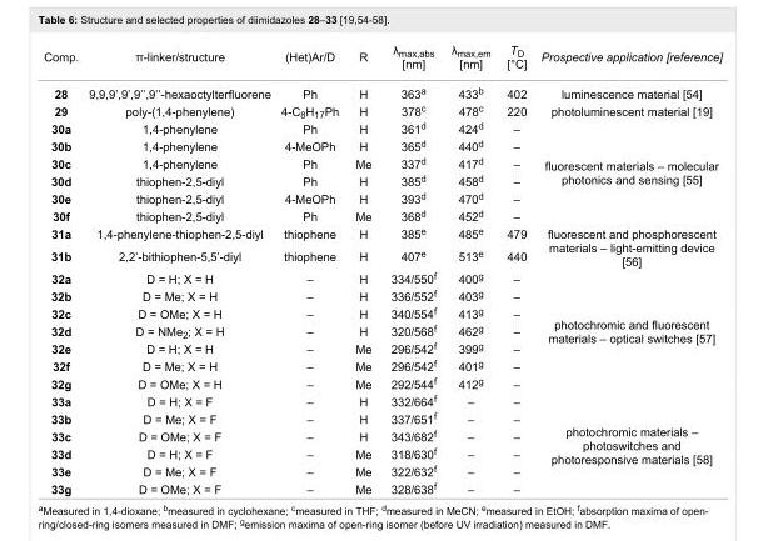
<table><tbody><tr><td>Comp.</td><td>π-linker/structure</td><td>(Het)Ar/D</td><td>R</td><td>λ<sub>max,abs</sub> [nm]</td><td>λ<sub>max,em</sub> [nm]</td><td>T<sub>D</sub> [°C]</td><td>Prospective application [reference]</td></tr><tr><td>28</td><td>9,9,9’,9’,9’’,9’’-hexaoctylterfluorene</td><td>Ph</td><td>H</td><td>363<sup>a</sup></td><td>433<sup>b</sup></td><td>402</td><td>luminescence material [54]</td></tr><tr><td>29</td><td>poly-(1,4-phenylene)</td><td>4-C<sub>8</sub>H<sub>17</sub>Ph</td><td>H</td><td>378<sup>c</sup></td><td>478<sup>c</sup></td><td>220</td><td>photoluminescent material [19]</td></tr><tr><td>30a</td><td>1,4-phenylene</td><td>Ph</td><td>H</td><td>361<sup>d</sup></td><td>424<sup>d</sup></td><td>–</td><td rowspan="6">fluorescent materials – molecular photonics and sensing [55]</td></tr><tr><td>30b</td><td>1,4-phenylene</td><td>4-MeOPh</td><td>H</td><td>365<sup>d</sup></td><td>440<sup>d</sup></td><td>–</td></tr><tr><td>30c</td><td>1,4-phenylene</td><td>Ph</td><td>Me</td><td>337<sup>d</sup></td><td>417<sup>d</sup></td><td>–</td></tr><tr><td>30d</td><td>thiophen-2,5-diyl</td><td>Ph</td><td>H</td><td>385<sup>d</sup></td><td>458<sup>d</sup></td><td>–</td></tr><tr><td>30e</td><td>thiophen-2,5-diyl</td><td>4-MeOPh</td><td>H</td><td>393<sup>d</sup></td><td>470<sup>d</sup></td><td>–</td></tr><tr><td>30f</td><td>thiophen-2,5-diyl</td><td>Ph</td><td>Me</td><td>368<sup>d</sup></td><td>452<sup>d</sup></td><td>–</td></tr><tr><td>31a</td><td>1,4-phenylene-thiophen-2,5-diyl</td><td>thiophene</td><td>H</td><td>385<sup>e</sup></td><td>485<sup>e</sup></td><td>479</td><td rowspan="2">fluorescent and phosphorescent materials – light-emitting device [56]</td></tr><tr><td>31b</td><td>2,2’-bithiophen-5,5’-diyl</td><td>thiophene</td><td>H</td><td>407<sup>e</sup></td><td>513<sup>e</sup></td><td>440</td></tr><tr><td>32a</td><td>D = H; X = H</td><td>–</td><td>H</td><td>334/550<sup>f</sup></td><td>400<sup>g</sup></td><td>–</td><td rowspan="7">photochromic and fluorescent materials – optical switches [57]</td></tr><tr><td>32b</td><td>D = Me; X = H</td><td>–</td><td>H</td><td>336/552<sup>f</sup></td><td>403<sup>g</sup></td><td>–</td></tr><tr><td>32c</td><td>D = OMe; X = H</td><td>–</td><td>H</td><td>340/554<sup>f</sup></td><td>413<sup>g</sup></td><td>–</td></tr><tr><td>32d</td><td>D = NMe<sub>2</sub>; X = H</td><td>–</td><td>H</td><td>320/568<sup>f</sup></td><td>462<sup>g</sup></td><td>–</td></tr><tr><td>32e</td><td>D = H; X = H</td><td>–</td><td>Me</td><td>296/542<sup>f</sup></td><td>399<sup>g</sup></td><td>–</td></tr><tr><td>32f</td><td>D = Me; X = H</td><td>–</td><td>Me</td><td>296/542<sup>f</sup></td><td>401<sup>g</sup></td><td>–</td></tr><tr><td>32g</td><td>D = OMe; X = H</td><td>–</td><td>Me</td><td>292/544<sup>f</sup></td><td>412<sup>g</sup></td><td>–</td></tr><tr><td>33a</td><td>D = H; X = F</td><td>–</td><td>H</td><td>332/664<sup>f</sup></td><td>–</td><td>–</td><td rowspan="6">photochromic materials – photoswitches and photoresponsive materials [58]</td></tr><tr><td>33b</td><td>D = Me; X = F</td><td>–</td><td>H</td><td>337/651<sup>f</sup></td><td>–</td><td>–</td></tr><tr><td>33c</td><td>D = OMe; X = F</td><td>–</td><td>H</td><td>343/682<sup>f</sup></td><td>–</td><td>–</td></tr><tr><td>33d</td><td>D = H; X = F</td><td>–</td><td>Me</td><td>318/630<sup>f</sup></td><td>–</td><td>–</td></tr><tr><td>33e</td><td>D = Me; X = F</td><td>–</td><td>Me</td><td>322/632<sup>f</sup></td><td>–</td><td>–</td></tr><tr><td>33g</td><td>D = OMe; X = F</td><td>–</td><td>Me</td><td>328/638<sup>f</sup></td><td>–</td><td>–</td></tr></tbody></table>